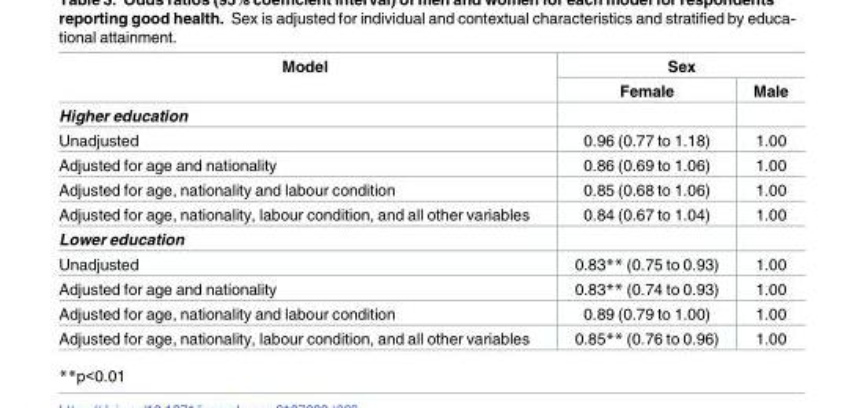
<table><thead><tr><td rowspan="2">Model</td><td colspan="2">Sex</td></tr><tr><td>Female</td><td>Male</td></tr></thead><tbody><tr><td colspan="3">Higher education</td></tr><tr><td>Unadjusted</td><td>0.96 (0.77 to 1.18)</td><td>1.00</td></tr><tr><td>Adjusted for age and nationality</td><td>0.86 (0.69 to 1.06)</td><td>1.00</td></tr><tr><td>Adjusted for age, nationality and labour condition</td><td>0.85 (0.68 to 1.06)</td><td>1.00</td></tr><tr><td>Adjusted for age, nationality, labour condition, and all other variables</td><td>0.84 (0.67 to 1.04)</td><td>1.00</td></tr><tr><td colspan="3">Lower education</td></tr><tr><td>Unadjusted</td><td>0.83** (0.75 to 0.93)</td><td>1.00</td></tr><tr><td>Adjusted for age and nationality</td><td>0.83** (0.74 to 0.93)</td><td>1.00</td></tr><tr><td>Adjusted for age, nationality and labour condition</td><td>0.89 (0.79 to 1.00)</td><td>1.00</td></tr><tr><td>Adjusted for age, nationality, labour condition, and all other variables</td><td>0.85** (0.76 to 0.96)</td><td>1.00</td></tr></tbody></table>